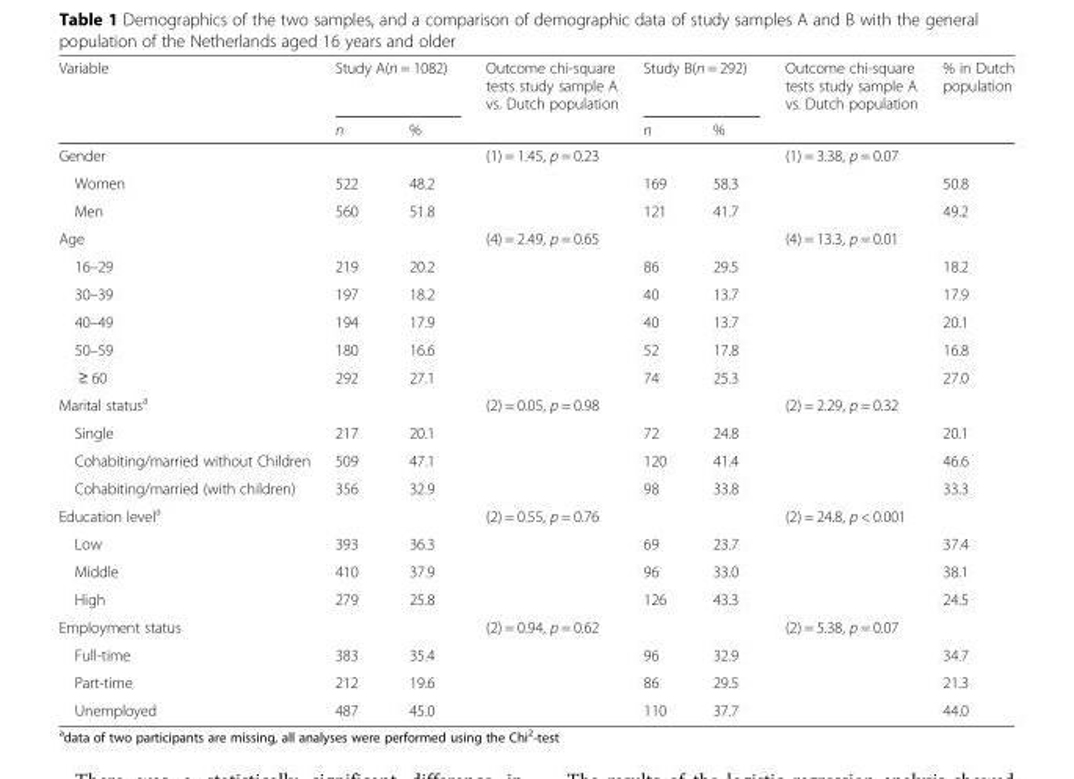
<table><thead><tr><td rowspan="2">Variable</td><td colspan="2">Study A(n = 1082)</td><td rowspan="2">Outcome chi-square tests study sample A vs. Dutch population</td><td colspan="2">Study B(n = 292)</td><td rowspan="2">Outcome chi-square tests study sample A vs. Dutch population</td><td rowspan="2">% in Dutch population</td></tr><tr><td>n</td><td>%</td><td>n</td><td>%</td></tr></thead><tbody><tr><td>Gender</td><td></td><td></td><td>(1) = 1.45, p = 0.23</td><td></td><td></td><td>(1) = 3.38, p = 0.07</td><td></td></tr><tr><td>Women</td><td>522</td><td>48.2</td><td></td><td>169</td><td>58.3</td><td></td><td>50.8</td></tr><tr><td>Men</td><td>560</td><td>51.8</td><td></td><td>121</td><td>41.7</td><td></td><td>49.2</td></tr><tr><td>Age</td><td></td><td></td><td>(4) = 2.49, p = 0.65</td><td></td><td></td><td>(4) = 13.3, p = 0.01</td><td></td></tr><tr><td>16–29</td><td>219</td><td>20.2</td><td></td><td>86</td><td>29.5</td><td></td><td>18.2</td></tr><tr><td>30–39</td><td>197</td><td>18.2</td><td></td><td>40</td><td>13.7</td><td></td><td>17.9</td></tr><tr><td>40–49</td><td>194</td><td>17.9</td><td></td><td>40</td><td>13.7</td><td></td><td>20.1</td></tr><tr><td>50–59</td><td>180</td><td>16.6</td><td></td><td>52</td><td>17.8</td><td></td><td>16.8</td></tr><tr><td>≥ 60</td><td>292</td><td>27.1</td><td></td><td>74</td><td>25.3</td><td></td><td>27.0</td></tr><tr><td>Marital status<sup>a</sup></td><td></td><td></td><td>(2) = 0.05, p = 0.98</td><td></td><td></td><td>(2) = 2.29, p = 0.32</td><td></td></tr><tr><td>Single</td><td>217</td><td>20.1</td><td></td><td>72</td><td>24.8</td><td></td><td>20.1</td></tr><tr><td>Cohabiting/married without Children</td><td>509</td><td>47.1</td><td></td><td>120</td><td>41.4</td><td></td><td>46.6</td></tr><tr><td>Cohabiting/married (with children)</td><td>356</td><td>32.9</td><td></td><td>98</td><td>33.8</td><td></td><td>33.3</td></tr><tr><td>Education level<sup>a</sup></td><td></td><td></td><td>(2) = 0.55, p = 0.76</td><td></td><td></td><td>(2) = 24.8, p &lt; 0.001</td><td></td></tr><tr><td>Low</td><td>393</td><td>36.3</td><td></td><td>69</td><td>23.7</td><td></td><td>37.4</td></tr><tr><td>Middle</td><td>410</td><td>37.9</td><td></td><td>96</td><td>33.0</td><td></td><td>38.1</td></tr><tr><td>High</td><td>279</td><td>25.8</td><td></td><td>126</td><td>43.3</td><td></td><td>24.5</td></tr><tr><td>Employment status</td><td></td><td></td><td>(2) = 0.94, p = 0.62</td><td></td><td></td><td>(2) = 5.38, p = 0.07</td><td></td></tr><tr><td>Full-time</td><td>383</td><td>35.4</td><td></td><td>96</td><td>32.9</td><td></td><td>34.7</td></tr><tr><td>Part-time</td><td>212</td><td>19.6</td><td></td><td>86</td><td>29.5</td><td></td><td>21.3</td></tr><tr><td>Unemployed</td><td>487</td><td>45.0</td><td></td><td>110</td><td>37.7</td><td></td><td>44.0</td></tr></tbody></table>